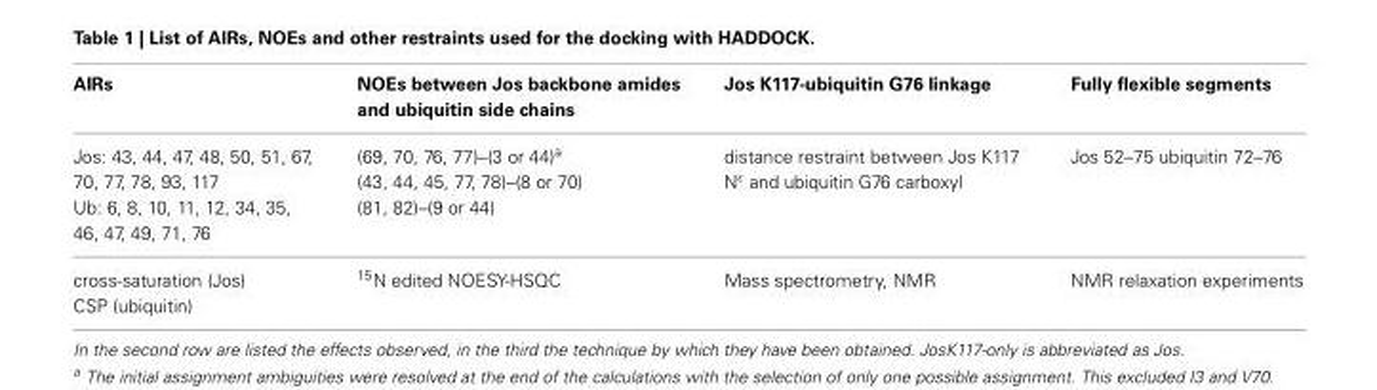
<table><thead><tr><td>AIRs</td><td>NOEs between Jos backbone amides and ubiquitin side chains</td><td>Jos K117-ubiquitin G76 linkage</td><td>Fully flexible segments</td></tr></thead><tbody><tr><td>Jos: 43, 44, 47, 48, 50, 51, 67, 70, 77, 78, 93, 117 Ub: 6, 8, 10, 11, 12, 34, 35, 46, 47, 49, 71, 76</td><td>(69, 70, 76, 77)–(3 or 44)<sup>a</sup> (43, 44, 45, 77, 78)–(8 or 70) (81, 82)–(9 or 44)</td><td>distance restraint between Jos K117 N<sup>ε</sup> and ubiquitin G76 carboxyl</td><td>Jos 52–75 ubiquitin 72–76</td></tr><tr><td>cross-saturation (Jos) CSP (ubiquitin)</td><td><sup>15</sup>N edited NOESY-HSQC</td><td>Mass spectrometry, NMR</td><td>NMR relaxation experiments</td></tr></tbody></table>